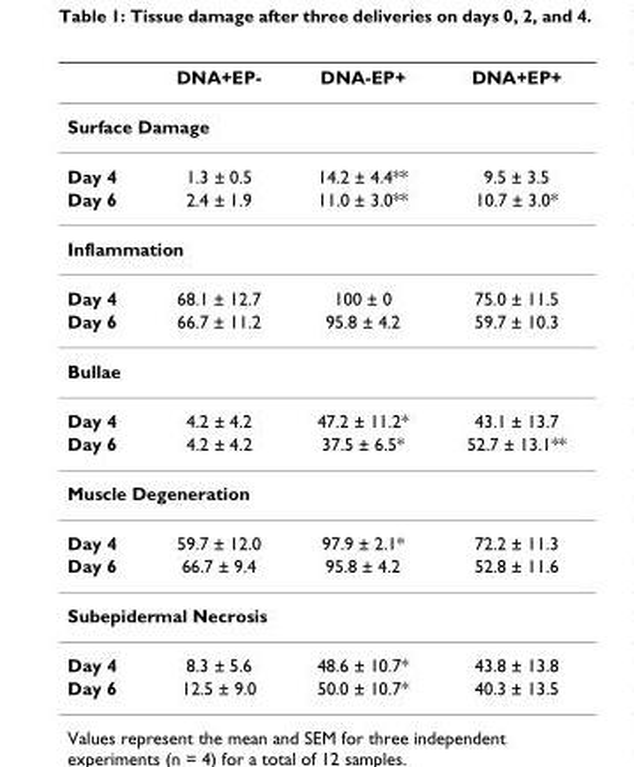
<table><thead><tr><td></td><td>DNA+EP-</td><td>DNA-EP+</td><td>DNA+EP+</td></tr></thead><tbody><tr><td colspan="4">Surface Damage</td></tr><tr><td>Day 4</td><td>1.3 ± 0.5</td><td>14.2 ± 4.4**</td><td>9.5 ± 3.5</td></tr><tr><td>Day 6</td><td>2.4 ± 1.9</td><td>11.0 ± 3.0**</td><td>10.7 ± 3.0*</td></tr><tr><td colspan="4">Inflammation</td></tr><tr><td>Day 4</td><td>68.1 ± 12.7</td><td>100 ± 0</td><td>75.0 ± 11.5</td></tr><tr><td>Day 6</td><td>66.7 ± 11.2</td><td>95.8 ± 4.2</td><td>59.7 ± 10.3</td></tr><tr><td colspan="4">Bullae</td></tr><tr><td>Day 4</td><td>4.2 ± 4.2</td><td>47.2 ± 11.2*</td><td>43.1 ± 13.7</td></tr><tr><td>Day 6</td><td>4.2 ± 4.2</td><td>37.5 ± 6.5*</td><td>52.7 ± 13.1**</td></tr><tr><td colspan="4">Muscle Degeneration</td></tr><tr><td>Day 4</td><td>59.7 ± 12.0</td><td>97.9 ± 2.1*</td><td>72.2 ± 11.3</td></tr><tr><td>Day 6</td><td>66.7 ± 9.4</td><td>95.8 ± 4.2</td><td>52.8 ± 11.6</td></tr><tr><td colspan="4">Subepidermal Necrosis</td></tr><tr><td>Day 4</td><td>8.3 ± 5.6</td><td>48.6 ± 10.7*</td><td>43.8 ± 13.8</td></tr><tr><td>Day 6</td><td>12.5 ± 9.0</td><td>50.0 ± 10.7*</td><td>40.3 ± 13.5</td></tr></tbody></table>